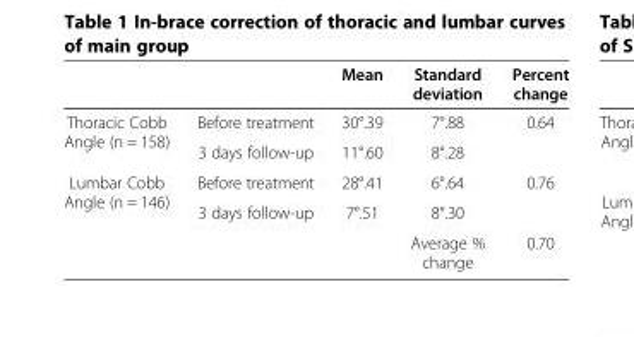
<table><thead><tr><td></td><td></td><td>Mean</td><td>Standard deviation</td><td>Percent change</td></tr></thead><tbody><tr><td rowspan="2">Thoracic Cobb Angle (n = 158)</td><td>Before treatment</td><td>30°.39</td><td>7°.88</td><td rowspan="2">0.64</td></tr><tr><td>3 days follow-up</td><td>11°.60</td><td>8°.28</td></tr><tr><td rowspan="2">Lumbar Cobb Angle (n = 146)</td><td>Before treatment</td><td>28°.41</td><td>6°.64</td><td rowspan="2">0.76</td></tr><tr><td>3 days follow-up</td><td>7°.51</td><td>8°.30</td></tr><tr><td colspan="3"></td><td>Average % change</td><td>0.70</td></tr></tbody></table>